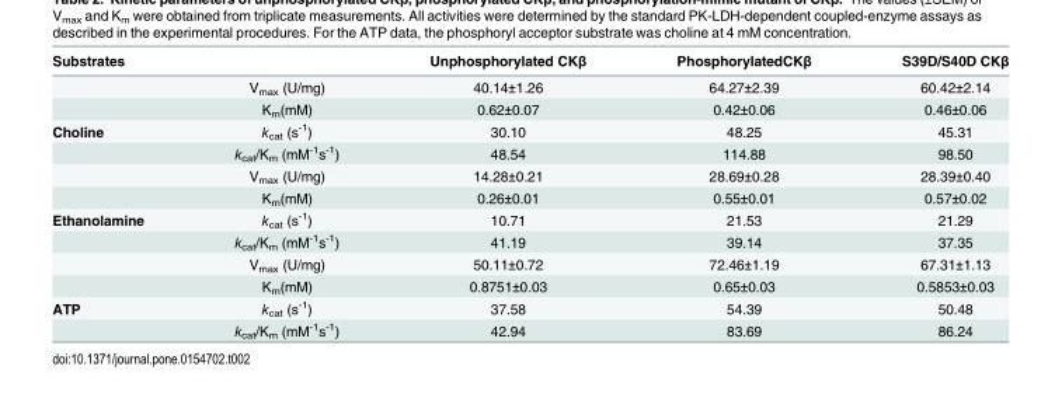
<table><thead><tr><td>Substrates</td><td></td><td>Unphosphorylated CKβ</td><td>PhosphorylatedCKβ</td><td>S39D/S40D CKβ</td></tr></thead><tbody><tr><td></td><td>V<sub>max</sub> (U/mg)</td><td>40.14±1.26</td><td>64.27±2.39</td><td>60.42±2.14</td></tr><tr><td></td><td>K<sub>m</sub>(mM)</td><td>0.62±0.07</td><td>0.42±0.06</td><td>0.46±0.06</td></tr><tr><td rowspan="4">Choline</td><td>k<sub>cat</sub> (s<sup>-1</sup>)</td><td>30.10</td><td>48.25</td><td>45.31</td></tr><tr><td>k<sub>cat</sub>/K<sub>m</sub> (mM<sup>-1</sup>s<sup>-1</sup>)</td><td>48.54</td><td>114.88</td><td>98.50</td></tr><tr><td>V<sub>max</sub> (U/mg)</td><td>14.28±0.21</td><td>28.69±0.28</td><td>28.39±0.40</td></tr><tr><td>K<sub>m</sub>(mM)</td><td>0.26±0.01</td><td>0.55±0.01</td><td>0.57±0.02</td></tr><tr><td rowspan="4">Ethanolamine</td><td>k<sub>cat</sub> (s<sup>-1</sup>)</td><td>10.71</td><td>21.53</td><td>21.29</td></tr><tr><td>k<sub>cat</sub>/K<sub>m</sub> (mM<sup>-1</sup>s<sup>-1</sup>)</td><td>41.19</td><td>39.14</td><td>37.35</td></tr><tr><td>V<sub>max</sub> (U/mg)</td><td>50.11±0.72</td><td>72.46±1.19</td><td>67.31±1.13</td></tr><tr><td>K<sub>m</sub>(mM)</td><td>0.8751±0.03</td><td>0.65±0.03</td><td>0.5853±0.03</td></tr><tr><td rowspan="2">ATP</td><td>k<sub>cat</sub> (s<sup>-1</sup>)</td><td>37.58</td><td>54.39</td><td>50.48</td></tr><tr><td>k<sub>cat</sub>/K<sub>m</sub> (mM<sup>-1</sup>s<sup>-1</sup>)</td><td>42.94</td><td>83.69</td><td>86.24</td></tr></tbody></table>